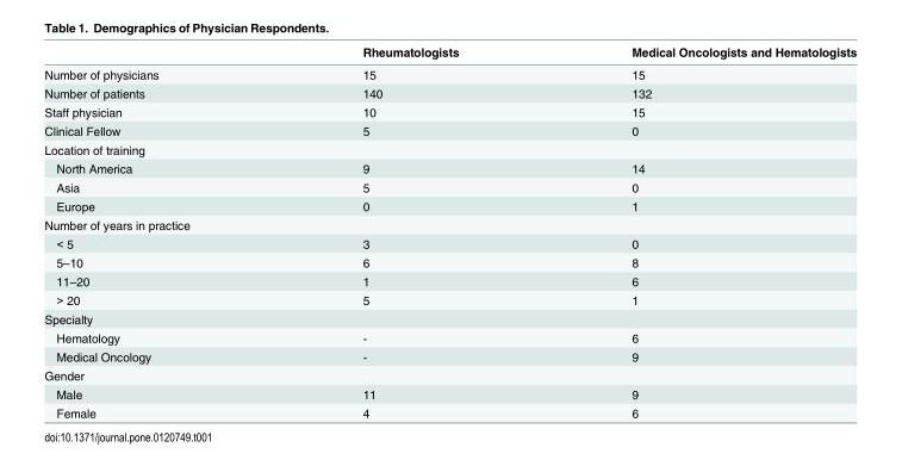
<table><thead><tr><td></td><td>Rheumatologists</td><td>Medical Oncologists and Hematologists</td></tr></thead><tbody><tr><td>Number of physicians</td><td>15</td><td>15</td></tr><tr><td>Number of patients</td><td>140</td><td>132</td></tr><tr><td>Staff physician</td><td>10</td><td>15</td></tr><tr><td>Clinical Fellow</td><td>5</td><td>0</td></tr><tr><td colspan="3">Location of training</td></tr><tr><td>North America</td><td>9</td><td>14</td></tr><tr><td>Asia</td><td>5</td><td>0</td></tr><tr><td>Europe</td><td>0</td><td>1</td></tr><tr><td colspan="3">Number of years in practice</td></tr><tr><td>&lt; 5</td><td>3</td><td>0</td></tr><tr><td>5–10</td><td>6</td><td>8</td></tr><tr><td>11–20</td><td>1</td><td>6</td></tr><tr><td>&gt; 20</td><td>5</td><td>1</td></tr><tr><td colspan="3">Specialty</td></tr><tr><td>Hematology</td><td>-</td><td>6</td></tr><tr><td>Medical Oncology</td><td>-</td><td>9</td></tr><tr><td colspan="3">Gender</td></tr><tr><td>Male</td><td>11</td><td>9</td></tr><tr><td>Female</td><td>4</td><td>6</td></tr></tbody></table>